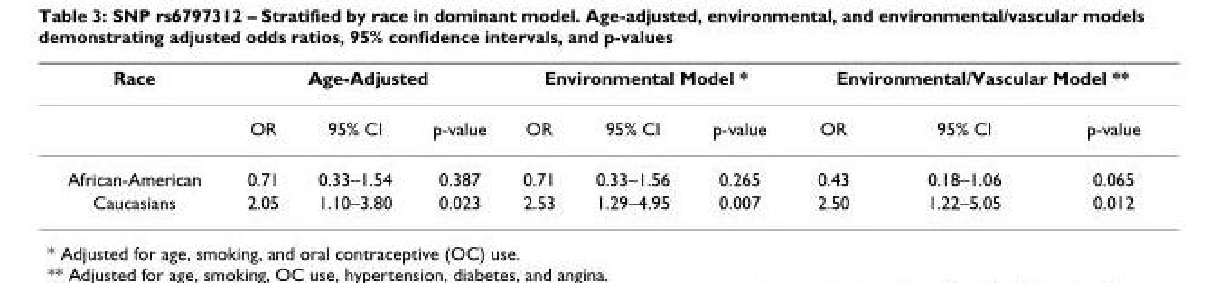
<table><thead><tr><td rowspan="2">Race</td><td colspan="3">Age-Adjusted</td><td colspan="3">Environmental Model *</td><td colspan="3">Environmental/Vascular Model **</td></tr><tr><td>OR</td><td>95% CI</td><td>p-value</td><td>OR</td><td>95% CI</td><td>p-value</td><td>OR</td><td>95% CI</td><td>p-value</td></tr></thead><tbody><tr><td>African-American</td><td>0.71</td><td>0.33–1.54</td><td>0.387</td><td>0.71</td><td>0.33–1.56</td><td>0.265</td><td>0.43</td><td>0.18–1.06</td><td>0.065</td></tr><tr><td>Caucasians</td><td>2.05</td><td>1.10–3.80</td><td>0.023</td><td>2.53</td><td>1.29–4.95</td><td>0.007</td><td>2.50</td><td>1.22–5.05</td><td>0.012</td></tr></tbody></table>